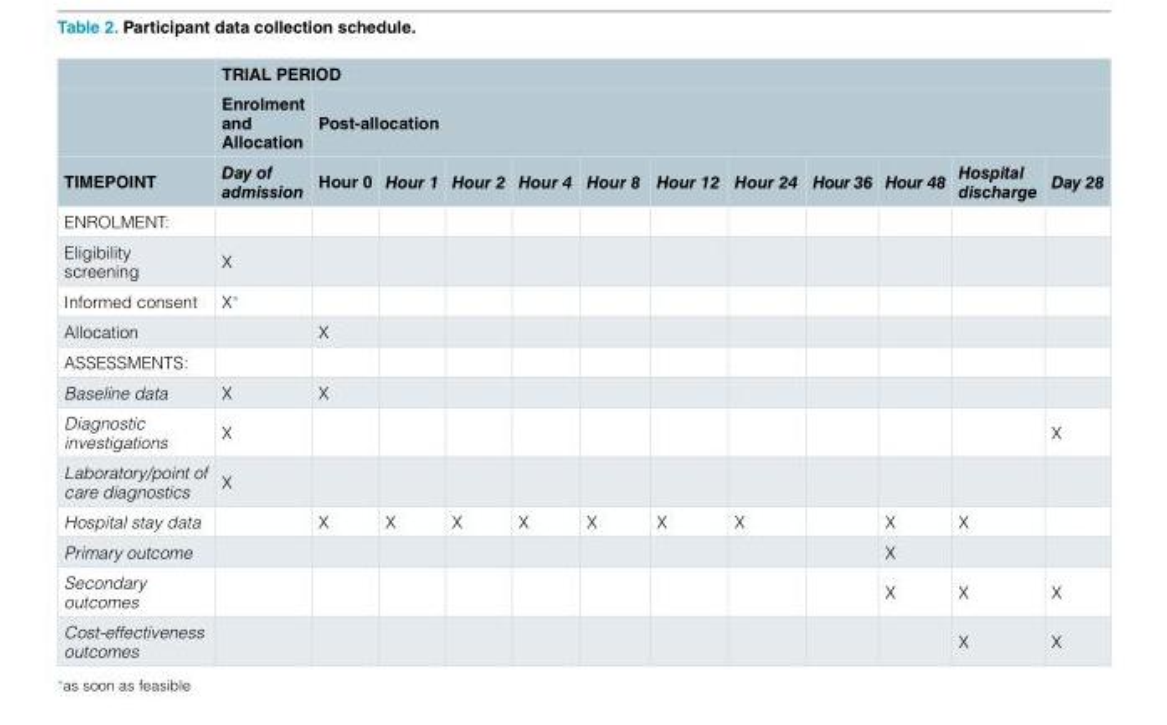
<table><thead><tr><td rowspan="3">TIMEPOINT</td><td colspan="12">TRIAL PERIOD</td></tr><tr><td rowspan="2">Enrolment and Allocation Day of admission</td><td colspan="11">Post-allocation</td></tr><tr><td>Hour 0</td><td>Hour 1</td><td>Hour 2</td><td>Hour 4</td><td>Hour 8</td><td>Hour 12</td><td>Hour 24</td><td>Hour 36</td><td>Hour 48</td><td>Hospital discharge</td><td>Day 28</td></tr></thead><tbody><tr><td colspan="13">ENROLMENT:</td></tr><tr><td>Eligibility screening</td><td>X</td><td></td><td></td><td></td><td></td><td></td><td></td><td></td><td></td><td></td><td></td><td></td></tr><tr><td>Informed consent</td><td>X*</td><td></td><td></td><td></td><td></td><td></td><td></td><td></td><td></td><td></td><td></td><td></td></tr><tr><td>Allocation</td><td></td><td>X</td><td></td><td></td><td></td><td></td><td></td><td></td><td></td><td></td><td></td><td></td></tr><tr><td colspan="13">ASSESSMENTS:</td></tr><tr><td>Baseline data</td><td>X</td><td>X</td><td></td><td></td><td></td><td></td><td></td><td></td><td></td><td></td><td></td><td></td></tr><tr><td>Diagnostic investigations</td><td>X</td><td></td><td></td><td></td><td></td><td></td><td></td><td></td><td></td><td></td><td></td><td>X</td></tr><tr><td>Laboratory/point of care diagnostics</td><td>X</td><td></td><td></td><td></td><td></td><td></td><td></td><td></td><td></td><td></td><td></td><td></td></tr><tr><td>Hospital stay data</td><td></td><td>X</td><td>X</td><td>X</td><td>X</td><td>X</td><td>X</td><td>X</td><td></td><td>X</td><td>X</td><td></td></tr><tr><td>Primary outcome</td><td></td><td></td><td></td><td></td><td></td><td></td><td></td><td></td><td></td><td>X</td><td></td><td></td></tr><tr><td>Secondary outcomes</td><td></td><td></td><td></td><td></td><td></td><td></td><td></td><td></td><td></td><td>X</td><td>X</td><td>X</td></tr><tr><td>Cost-effectiveness outcomes</td><td></td><td></td><td></td><td></td><td></td><td></td><td></td><td></td><td></td><td></td><td>X</td><td>X</td></tr></tbody></table>